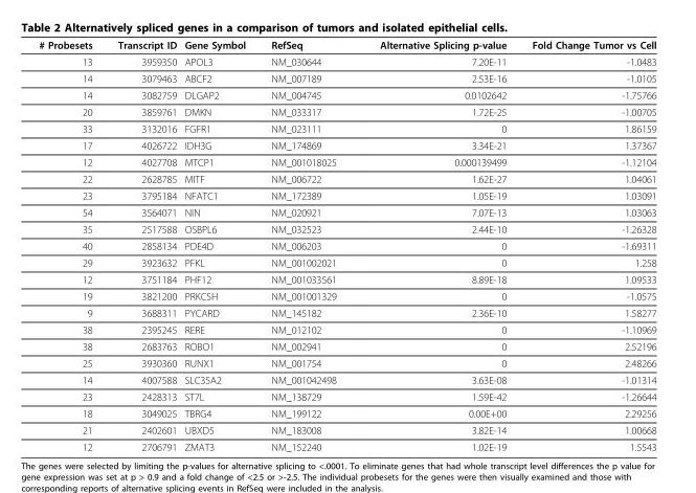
<table><thead><tr><td># Probesets</td><td>Transcript ID</td><td>Gene Symbol</td><td>RefSeq</td><td>Alternative Splicing p-value</td><td>Fold Change Tumor vs Cell</td></tr></thead><tbody><tr><td>13</td><td>3959350</td><td>APOL3</td><td>NM_030644</td><td>7.20E-11</td><td>-1.0483</td></tr><tr><td>14</td><td>3079463</td><td>ABCF2</td><td>NM_007189</td><td>2.53E-16</td><td>-1.0105</td></tr><tr><td>14</td><td>3082759</td><td>DLGAP2</td><td>NM_004745</td><td>0.0102642</td><td>-1.75766</td></tr><tr><td>20</td><td>3859761</td><td>DMKN</td><td>NM_033317</td><td>1.72E-25</td><td>-1.00705</td></tr><tr><td>33</td><td>3132016</td><td>FGFR1</td><td>NM_023111</td><td>0</td><td>1.86159</td></tr><tr><td>17</td><td>4026722</td><td>IDH3G</td><td>NM_174869</td><td>3.34E-21</td><td>1.37367</td></tr><tr><td>12</td><td>4027708</td><td>MTCP1</td><td>NM_001018025</td><td>0.000139499</td><td>-1.12104</td></tr><tr><td>22</td><td>2628785</td><td>MITF</td><td>NM_006722</td><td>1.62E-27</td><td>1.04061</td></tr><tr><td>23</td><td>3795184</td><td>NFATC1</td><td>NM_172389</td><td>1.05E-19</td><td>1.03091</td></tr><tr><td>54</td><td>3564071</td><td>NIN</td><td>NM_020921</td><td>7.07E-13</td><td>1.03063</td></tr><tr><td>35</td><td>2517588</td><td>OSBPL6</td><td>NM_032523</td><td>2.44E-10</td><td>-1.26328</td></tr><tr><td>40</td><td>2858134</td><td>PDE4D</td><td>NM_006203</td><td>0</td><td>-1.69311</td></tr><tr><td>29</td><td>3923632</td><td>PFKL</td><td>NM_001002021</td><td>0</td><td>1.258</td></tr><tr><td>12</td><td>3751184</td><td>PHF12</td><td>NM_001033561</td><td>8.89E-18</td><td>1.09533</td></tr><tr><td>19</td><td>3821200</td><td>PRKCSH</td><td>NM_001001329</td><td>0</td><td>-1.0575</td></tr><tr><td>9</td><td>3688311</td><td>PYCARD</td><td>NM_145182</td><td>2.36E-10</td><td>1.58277</td></tr><tr><td>38</td><td>2395245</td><td>RERE</td><td>NM_012102</td><td>0</td><td>-1.10969</td></tr><tr><td>38</td><td>2683763</td><td>ROBO1</td><td>NM_002941</td><td>0</td><td>2.52196</td></tr><tr><td>25</td><td>3930360</td><td>RUNX1</td><td>NM_001754</td><td>0</td><td>2.48266</td></tr><tr><td>14</td><td>4007588</td><td>SLC35A2</td><td>NM_001042498</td><td>3.63E-08</td><td>-1.01314</td></tr><tr><td>23</td><td>2428313</td><td>ST7L</td><td>NM_138729</td><td>1.59E-42</td><td>-1.26644</td></tr><tr><td>18</td><td>3049025</td><td>TBRG4</td><td>NM_199122</td><td>0.00E+00</td><td>2.29256</td></tr><tr><td>21</td><td>2402601</td><td>UBXD5</td><td>NM_183008</td><td>3.82E-14</td><td>1.00668</td></tr><tr><td>12</td><td>2706791</td><td>ZMAT3</td><td>NM_152240</td><td>1.02E-19</td><td>1.5543</td></tr></tbody></table>